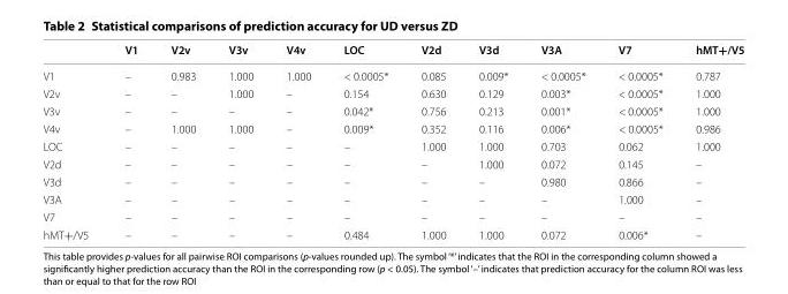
<table><thead><tr><td></td><td>V1</td><td>V2v</td><td>V3v</td><td>V4v</td><td>LOC</td><td>V2d</td><td>V3d</td><td>V3A</td><td>V7</td><td>hMT+/V5</td></tr></thead><tbody><tr><td>V1</td><td>–</td><td>0.983</td><td>1.000</td><td>1.000</td><td>&lt; 0.0005*</td><td>0.085</td><td>0.009*</td><td>&lt; 0.0005*</td><td>&lt; 0.0005*</td><td>0.787</td></tr><tr><td>V2v</td><td>–</td><td>–</td><td>1.000</td><td>–</td><td>0.154</td><td>0.630</td><td>0.129</td><td>0.003*</td><td>&lt; 0.0005*</td><td>1.000</td></tr><tr><td>V3v</td><td>–</td><td>–</td><td>–</td><td>–</td><td>0.042*</td><td>0.756</td><td>0.213</td><td>0.001*</td><td>&lt; 0.0005*</td><td>1.000</td></tr><tr><td>V4v</td><td>–</td><td>1.000</td><td>1.000</td><td>–</td><td>0.009*</td><td>0.352</td><td>0.116</td><td>0.006*</td><td>&lt; 0.0005*</td><td>0.986</td></tr><tr><td>LOC</td><td>–</td><td>–</td><td>–</td><td>–</td><td>–</td><td>1.000</td><td>1.000</td><td>0.703</td><td>0.062</td><td>1.000</td></tr><tr><td>V2d</td><td>–</td><td>–</td><td>–</td><td>–</td><td>–</td><td>–</td><td>1.000</td><td>0.072</td><td>0.145</td><td>–</td></tr><tr><td>V3d</td><td>–</td><td>–</td><td>–</td><td>–</td><td>–</td><td>–</td><td>–</td><td>0.980</td><td>0.866</td><td>–</td></tr><tr><td>V3A</td><td>–</td><td>–</td><td>–</td><td>–</td><td>–</td><td>–</td><td>–</td><td>–</td><td>1.000</td><td>–</td></tr><tr><td>V7</td><td>–</td><td>–</td><td>–</td><td>–</td><td>–</td><td>–</td><td>–</td><td>–</td><td>–</td><td>–</td></tr><tr><td>hMT+/V5</td><td>–</td><td>–</td><td>–</td><td>–</td><td>0.484</td><td>1.000</td><td>1.000</td><td>0.072</td><td>0.006*</td><td>–</td></tr></tbody></table>